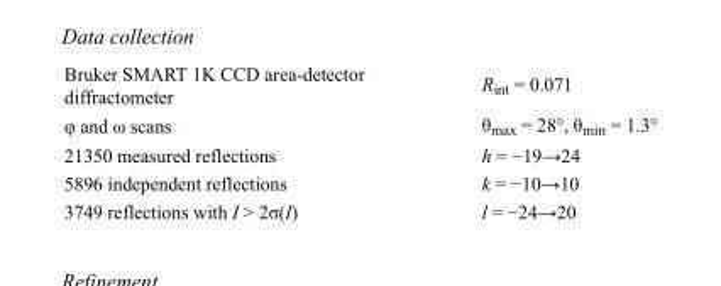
<table><tbody><tr><td>Bruker SMART 1K CCD area-detector diffractometer</td><td>R<sub>int</sub> = 0.071</td></tr><tr><td>φ and ω scans</td><td>θ<sub>max</sub> = 28°, θ<sub>min</sub> = 1.3°</td></tr><tr><td>21350 measured reflections</td><td>h = −19→24</td></tr><tr><td>5896 independent reflections</td><td>k = −10→10</td></tr><tr><td>3749 reflections with I &gt; 2σ(I)</td><td>l = −24→20</td></tr></tbody></table>